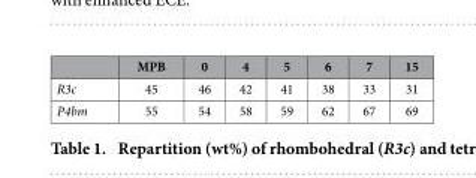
<table><thead><tr><td></td><td>MPB</td><td>0</td><td>4</td><td>5</td><td>6</td><td>7</td><td>15</td></tr></thead><tbody><tr><td>R3c</td><td>45</td><td>46</td><td>42</td><td>41</td><td>38</td><td>33</td><td>31</td></tr><tr><td>P4bm</td><td>55</td><td>54</td><td>58</td><td>59</td><td>62</td><td>67</td><td>69</td></tr></tbody></table>